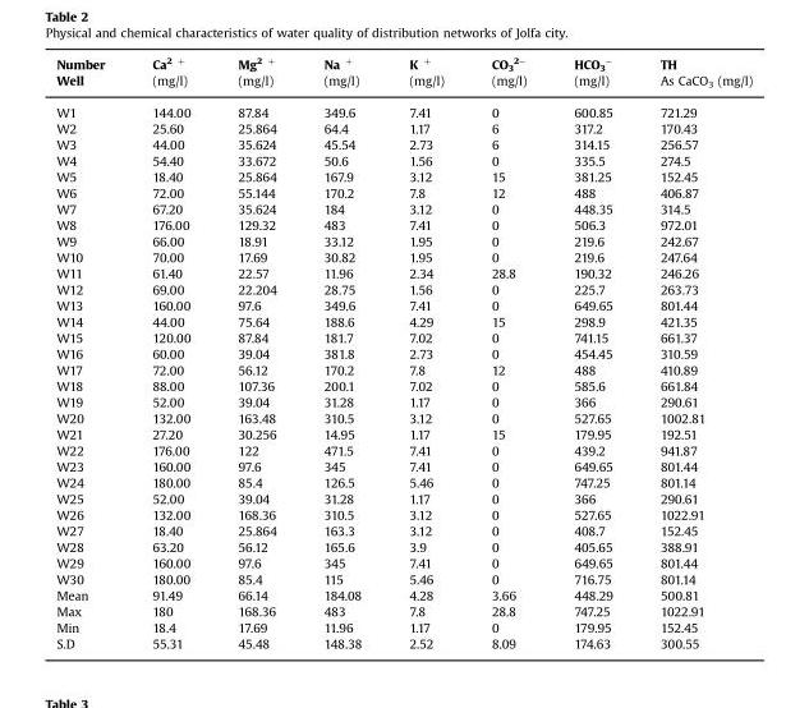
<table><thead><tr><td rowspan="2">Number Well</td><td rowspan="2">Ca<sup>2 +</sup> (mg/l)</td><td rowspan="2">Mg<sup>2 +</sup> (mg/l)</td><td rowspan="2">Na <sup>+</sup> (mg/l)</td><td rowspan="2">K <sup>+</sup> (mg/l)</td><td rowspan="2">CO<sub>3</sub> <sup>2−</sup> (mg/l)</td><td rowspan="2">HCO<sub>3</sub> <sup>−</sup> (mg/l)</td><td rowspan="2">TH As CaCO<sub>3</sub> (mg/l)</td></tr><tr></tr></thead><tbody><tr><td>W1</td><td>144.00</td><td>87.84</td><td>349.6</td><td>7.41</td><td>0</td><td>600.85</td><td>721.29</td></tr><tr><td>W2</td><td>25.60</td><td>25.864</td><td>64.4</td><td>1.17</td><td>6</td><td>317.2</td><td>170.43</td></tr><tr><td>W3</td><td>44.00</td><td>35.624</td><td>45.54</td><td>2.73</td><td>6</td><td>314.15</td><td>256.57</td></tr><tr><td>W4</td><td>54.40</td><td>33.672</td><td>50.6</td><td>1.56</td><td>0</td><td>335.5</td><td>274.5</td></tr><tr><td>W5</td><td>18.40</td><td>25.864</td><td>167.9</td><td>3.12</td><td>15</td><td>381.25</td><td>152.45</td></tr><tr><td>W6</td><td>72.00</td><td>55.144</td><td>170.2</td><td>7.8</td><td>12</td><td>488</td><td>406.87</td></tr><tr><td>W7</td><td>67.20</td><td>35.624</td><td>184</td><td>3.12</td><td>0</td><td>448.35</td><td>314.5</td></tr><tr><td>W8</td><td>176.00</td><td>129.32</td><td>483</td><td>7.41</td><td>0</td><td>506.3</td><td>972.01</td></tr><tr><td>W9</td><td>66.00</td><td>18.91</td><td>33.12</td><td>1.95</td><td>0</td><td>219.6</td><td>242.67</td></tr><tr><td>W10</td><td>70.00</td><td>17.69</td><td>30.82</td><td>1.95</td><td>0</td><td>219.6</td><td>247.64</td></tr><tr><td>W11</td><td>61.40</td><td>22.57</td><td>11.96</td><td>2.34</td><td>28.8</td><td>190.32</td><td>246.26</td></tr><tr><td>W12</td><td>69.00</td><td>22.204</td><td>28.75</td><td>1.56</td><td>0</td><td>225.7</td><td>263.73</td></tr><tr><td>W13</td><td>160.00</td><td>97.6</td><td>349.6</td><td>7.41</td><td>0</td><td>649.65</td><td>801.44</td></tr><tr><td>W14</td><td>44.00</td><td>75.64</td><td>188.6</td><td>4.29</td><td>15</td><td>298.9</td><td>421.35</td></tr><tr><td>W15</td><td>120.00</td><td>87.84</td><td>181.7</td><td>7.02</td><td>0</td><td>741.15</td><td>661.37</td></tr><tr><td>W16</td><td>60.00</td><td>39.04</td><td>381.8</td><td>2.73</td><td>0</td><td>454.45</td><td>310.59</td></tr><tr><td>W17</td><td>72.00</td><td>56.12</td><td>170.2</td><td>7.8</td><td>12</td><td>488</td><td>410.89</td></tr><tr><td>W18</td><td>88.00</td><td>107.36</td><td>200.1</td><td>7.02</td><td>0</td><td>585.6</td><td>661.84</td></tr><tr><td>W19</td><td>52.00</td><td>39.04</td><td>31.28</td><td>1.17</td><td>0</td><td>366</td><td>290.61</td></tr><tr><td>W20</td><td>132.00</td><td>163.48</td><td>310.5</td><td>3.12</td><td>0</td><td>527.65</td><td>1002.81</td></tr><tr><td>W21</td><td>27.20</td><td>30.256</td><td>14.95</td><td>1.17</td><td>15</td><td>179.95</td><td>192.51</td></tr><tr><td>W22</td><td>176.00</td><td>122</td><td>471.5</td><td>7.41</td><td>0</td><td>439.2</td><td>941.87</td></tr><tr><td>W23</td><td>160.00</td><td>97.6</td><td>345</td><td>7.41</td><td>0</td><td>649.65</td><td>801.44</td></tr><tr><td>W24</td><td>180.00</td><td>85.4</td><td>126.5</td><td>5.46</td><td>0</td><td>747.25</td><td>801.14</td></tr><tr><td>W25</td><td>52.00</td><td>39.04</td><td>31.28</td><td>1.17</td><td>0</td><td>366</td><td>290.61</td></tr><tr><td>W26</td><td>132.00</td><td>168.36</td><td>310.5</td><td>3.12</td><td>0</td><td>527.65</td><td>1022.91</td></tr><tr><td>W27</td><td>18.40</td><td>25.864</td><td>163.3</td><td>3.12</td><td>0</td><td>408.7</td><td>152.45</td></tr><tr><td>W28</td><td>63.20</td><td>56.12</td><td>165.6</td><td>3.9</td><td>0</td><td>405.65</td><td>388.91</td></tr><tr><td>W29</td><td>160.00</td><td>97.6</td><td>345</td><td>7.41</td><td>0</td><td>649.65</td><td>801.44</td></tr><tr><td>W30</td><td>180.00</td><td>85.4</td><td>115</td><td>5.46</td><td>0</td><td>716.75</td><td>801.14</td></tr><tr><td>Mean</td><td>91.49</td><td>66.14</td><td>184.08</td><td>4.28</td><td>3.66</td><td>448.29</td><td>500.81</td></tr><tr><td>Max</td><td>180</td><td>168.36</td><td>483</td><td>7.8</td><td>28.8</td><td>747.25</td><td>1022.91</td></tr><tr><td>Min</td><td>18.4</td><td>17.69</td><td>11.96</td><td>1.17</td><td>0</td><td>179.95</td><td>152.45</td></tr><tr><td>S.D</td><td>55.31</td><td>45.48</td><td>148.38</td><td>2.52</td><td>8.09</td><td>174.63</td><td>300.55</td></tr></tbody></table>